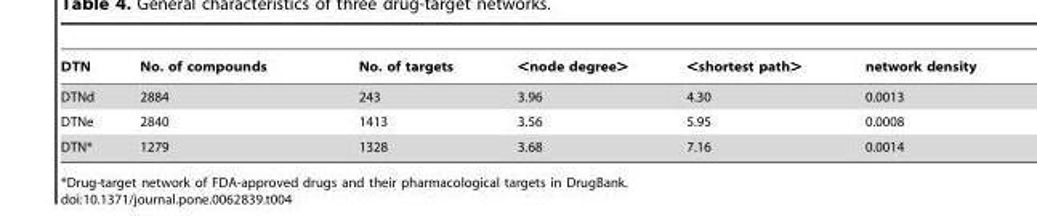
<table><thead><tr><td>DTN</td><td>No. of compounds</td><td>No. of targets</td><td>&lt;node degree&gt;</td><td>&lt;shortest path&gt;</td><td>network density</td></tr></thead><tbody><tr><td>DTNd</td><td>2884</td><td>243</td><td>3.96</td><td>4.30</td><td>0.0013</td></tr><tr><td>DTNe</td><td>2840</td><td>1413</td><td>3.56</td><td>5.95</td><td>0.0008</td></tr><tr><td>DTN*</td><td>1279</td><td>1328</td><td>3.68</td><td>7.16</td><td>0.0014</td></tr></tbody></table>